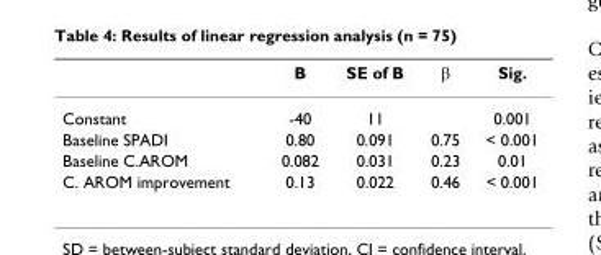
<table><thead><tr><td></td><td>B</td><td>SE of B</td><td>β</td><td>Sig.</td></tr></thead><tbody><tr><td>Constant</td><td>-40</td><td>11</td><td></td><td>0.001</td></tr><tr><td>Baseline SPADI</td><td>0.80</td><td>0.091</td><td>0.75</td><td>&lt; 0.001</td></tr><tr><td>Baseline C.AROM</td><td>0.082</td><td>0.031</td><td>0.23</td><td>0.01</td></tr><tr><td>C. AROM improvement</td><td>0.13</td><td>0.022</td><td>0.46</td><td>&lt; 0.001</td></tr></tbody></table>